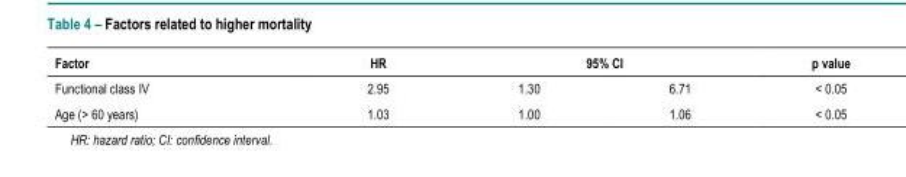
<table><thead><tr><td rowspan="2">Factor Functional class IV</td><td rowspan="2">HR 2.95</td><td colspan="2">95% CI</td><td rowspan="2">p value &lt; 0.05</td></tr><tr><td>1.30</td><td>6.71</td></tr></thead><tbody><tr><td>Age (&gt; 60 years)</td><td>1.03</td><td>1.00</td><td>1.06</td><td>&lt; 0.05</td></tr></tbody></table>